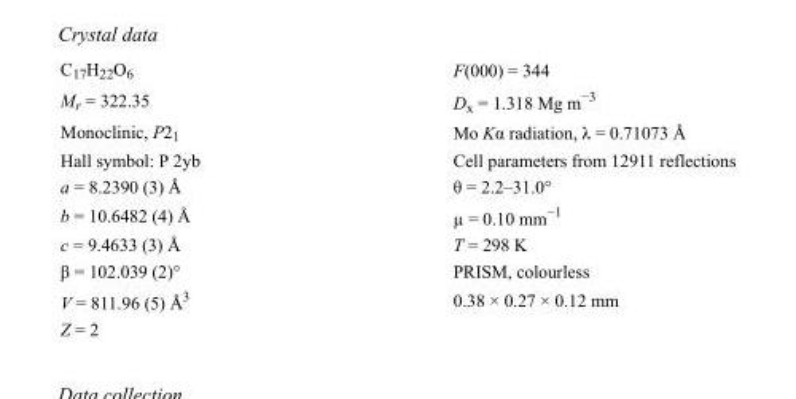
<table><tbody><tr><td>C<sub>17</sub>H<sub>22</sub>O<sub>6</sub></td><td>F(000) = 344</td></tr><tr><td>M<sub>r</sub> = 322.35</td><td>D<sub>x</sub> = 1.318 Mg m<sup>−3</sup></td></tr><tr><td>Monoclinic, P2<sub>1</sub></td><td>Mo Kα radiation, λ = 0.71073 Å</td></tr><tr><td>Hall symbol: P 2yb</td><td>Cell parameters from 12911 reflections</td></tr><tr><td>a = 8.2390 (3) Å</td><td>θ = 2.2–31.0°</td></tr><tr><td>b = 10.6482 (4) Å</td><td>µ = 0.10 mm<sup>−1</sup></td></tr><tr><td>c = 9.4633 (3) Å</td><td>T = 298 K</td></tr><tr><td>β = 102.039 (2)°</td><td>PRISM, colourless</td></tr><tr><td>V = 811.96 (5) Å<sup>3</sup></td><td>0.38 × 0.27 × 0.12 mm</td></tr><tr><td>Z = 2</td><td></td></tr></tbody></table>